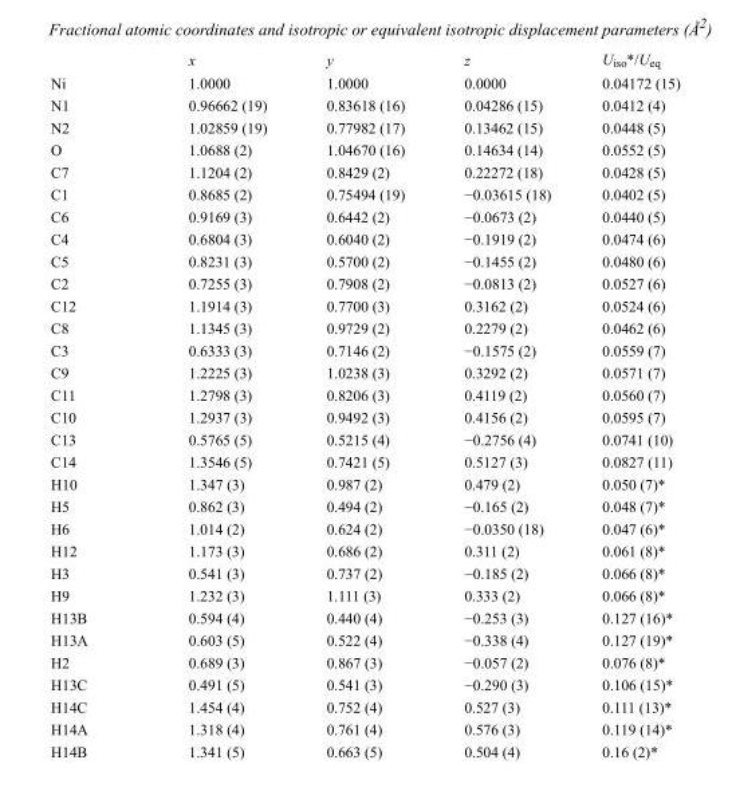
<table><thead><tr><td></td><td>x</td><td>y</td><td>z</td><td>U<sub>iso</sub>*/U<sub>eq</sub></td></tr></thead><tbody><tr><td>Ni</td><td>1.0000</td><td>1.0000</td><td>0.0000</td><td>0.04172 (15)</td></tr><tr><td>N1</td><td>0.96662 (19)</td><td>0.83618 (16)</td><td>0.04286 (15)</td><td>0.0412 (4)</td></tr><tr><td>N2</td><td>1.02859 (19)</td><td>0.77982 (17)</td><td>0.13462 (15)</td><td>0.0448 (5)</td></tr><tr><td>O</td><td>1.0688 (2)</td><td>1.04670 (16)</td><td>0.14634 (14)</td><td>0.0552 (5)</td></tr><tr><td>C7</td><td>1.1204 (2)</td><td>0.8429 (2)</td><td>0.22272 (18)</td><td>0.0428 (5)</td></tr><tr><td>C1</td><td>0.8685 (2)</td><td>0.75494 (19)</td><td>−0.03615 (18)</td><td>0.0402 (5)</td></tr><tr><td>C6</td><td>0.9169 (3)</td><td>0.6442 (2)</td><td>−0.0673 (2)</td><td>0.0440 (5)</td></tr><tr><td>C4</td><td>0.6804 (3)</td><td>0.6040 (2)</td><td>−0.1919 (2)</td><td>0.0474 (6)</td></tr><tr><td>C5</td><td>0.8231 (3)</td><td>0.5700 (2)</td><td>−0.1455 (2)</td><td>0.0480 (6)</td></tr><tr><td>C2</td><td>0.7255 (3)</td><td>0.7908 (2)</td><td>−0.0813 (2)</td><td>0.0527 (6)</td></tr><tr><td>C12</td><td>1.1914 (3)</td><td>0.7700 (3)</td><td>0.3162 (2)</td><td>0.0524 (6)</td></tr><tr><td>C8</td><td>1.1345 (3)</td><td>0.9729 (2)</td><td>0.2279 (2)</td><td>0.0462 (6)</td></tr><tr><td>C3</td><td>0.6333 (3)</td><td>0.7146 (2)</td><td>−0.1575 (2)</td><td>0.0559 (7)</td></tr><tr><td>C9</td><td>1.2225 (3)</td><td>1.0238 (3)</td><td>0.3292 (2)</td><td>0.0571 (7)</td></tr><tr><td>C11</td><td>1.2798 (3)</td><td>0.8206 (3)</td><td>0.4119 (2)</td><td>0.0560 (7)</td></tr><tr><td>C10</td><td>1.2937 (3)</td><td>0.9492 (3)</td><td>0.4156 (2)</td><td>0.0595 (7)</td></tr><tr><td>C13</td><td>0.5765 (5)</td><td>0.5215 (4)</td><td>−0.2756 (4)</td><td>0.0741 (10)</td></tr><tr><td>C14</td><td>1.3546 (5)</td><td>0.7421 (5)</td><td>0.5127 (3)</td><td>0.0827 (11)</td></tr><tr><td>H10</td><td>1.347 (3)</td><td>0.987 (2)</td><td>0.479 (2)</td><td>0.050 (7)*</td></tr><tr><td>H5</td><td>0.862 (3)</td><td>0.494 (2)</td><td>−0.165 (2)</td><td>0.048 (7)*</td></tr><tr><td>H6</td><td>1.014 (2)</td><td>0.624 (2)</td><td>−0.0350 (18)</td><td>0.047 (6)*</td></tr><tr><td>H12</td><td>1.173 (3)</td><td>0.686 (2)</td><td>0.311 (2)</td><td>0.061 (8)*</td></tr><tr><td>H3</td><td>0.541 (3)</td><td>0.737 (2)</td><td>−0.185 (2)</td><td>0.066 (8)*</td></tr><tr><td>H9</td><td>1.232 (3)</td><td>1.111 (3)</td><td>0.333 (2)</td><td>0.066 (8)*</td></tr><tr><td>H13B</td><td>0.594 (4)</td><td>0.440 (4)</td><td>−0.253 (3)</td><td>0.127 (16)*</td></tr><tr><td>H13A</td><td>0.603 (5)</td><td>0.522 (4)</td><td>−0.338 (4)</td><td>0.127 (19)*</td></tr><tr><td>H2</td><td>0.689 (3)</td><td>0.867 (3)</td><td>−0.057 (2)</td><td>0.076 (8)*</td></tr><tr><td>H13C</td><td>0.491 (5)</td><td>0.541 (3)</td><td>−0.290 (3)</td><td>0.106 (15)*</td></tr><tr><td>H14C</td><td>1.454 (4)</td><td>0.752 (4)</td><td>0.527 (3)</td><td>0.111 (13)*</td></tr><tr><td>H14A</td><td>1.318 (4)</td><td>0.761 (4)</td><td>0.576 (3)</td><td>0.119 (14)*</td></tr><tr><td>H14B</td><td>1.341 (5)</td><td>0.663 (5)</td><td>0.504 (4)</td><td>0.16 (2)*</td></tr></tbody></table>